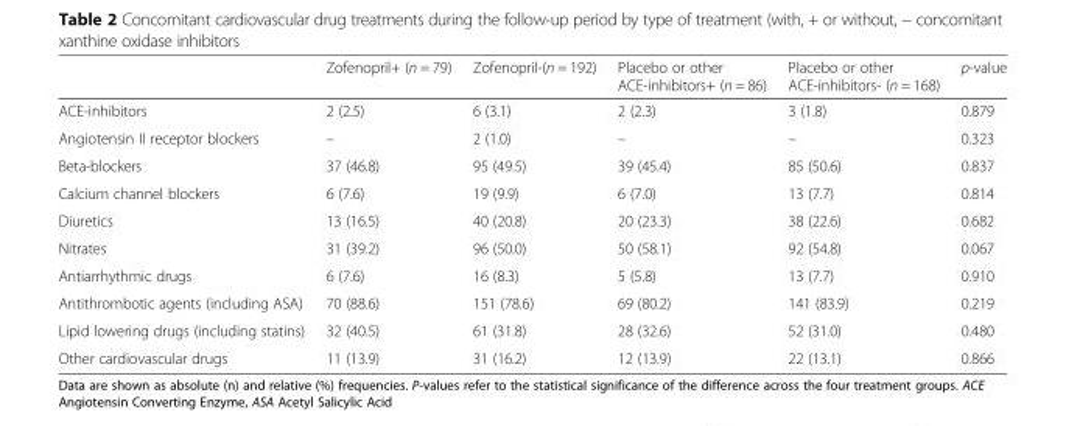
<table><thead><tr><td></td><td>Zofenopril+ (n = 79)</td><td>Zofenopril-(n = 192)</td><td>Placebo or other ACE-inhibitors+ (n = 86)</td><td>Placebo or other ACE-inhibitors- (n = 168)</td><td>p-value</td></tr></thead><tbody><tr><td>ACE-inhibitors</td><td>2 (2.5)</td><td>6 (3.1)</td><td>2 (2.3)</td><td>3 (1.8)</td><td>0.879</td></tr><tr><td>Angiotensin II receptor blockers</td><td>–</td><td>2 (1.0)</td><td>–</td><td>–</td><td>0.323</td></tr><tr><td>Beta-blockers</td><td>37 (46.8)</td><td>95 (49.5)</td><td>39 (45.4)</td><td>85 (50.6)</td><td>0.837</td></tr><tr><td>Calcium channel blockers</td><td>6 (7.6)</td><td>19 (9.9)</td><td>6 (7.0)</td><td>13 (7.7)</td><td>0.814</td></tr><tr><td>Diuretics</td><td>13 (16.5)</td><td>40 (20.8)</td><td>20 (23.3)</td><td>38 (22.6)</td><td>0.682</td></tr><tr><td>Nitrates</td><td>31 (39.2)</td><td>96 (50.0)</td><td>50 (58.1)</td><td>92 (54.8)</td><td>0.067</td></tr><tr><td>Antiarrhythmic drugs</td><td>6 (7.6)</td><td>16 (8.3)</td><td>5 (5.8)</td><td>13 (7.7)</td><td>0.910</td></tr><tr><td>Antithrombotic agents (including ASA)</td><td>70 (88.6)</td><td>151 (78.6)</td><td>69 (80.2)</td><td>141 (83.9)</td><td>0.219</td></tr><tr><td>Lipid lowering drugs (including statins)</td><td>32 (40.5)</td><td>61 (31.8)</td><td>28 (32.6)</td><td>52 (31.0)</td><td>0.480</td></tr><tr><td>Other cardiovascular drugs</td><td>11 (13.9)</td><td>31 (16.2)</td><td>12 (13.9)</td><td>22 (13.1)</td><td>0.866</td></tr></tbody></table>